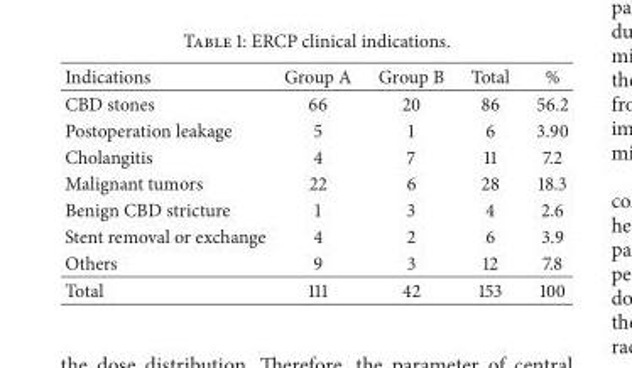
<table><thead><tr><td>Indications</td><td>Group A</td><td>Group B</td><td>Total</td><td>%</td></tr></thead><tbody><tr><td>CBD stones</td><td>66</td><td>20</td><td>86</td><td>56.2</td></tr><tr><td>Postoperation leakage</td><td>5</td><td>1</td><td>6</td><td>3.90</td></tr><tr><td>Cholangitis</td><td>4</td><td>7</td><td>11</td><td>7.2</td></tr><tr><td>Malignant tumors</td><td>22</td><td>6</td><td>28</td><td>18.3</td></tr><tr><td>Benign CBD stricture</td><td>1</td><td>3</td><td>4</td><td>2.6</td></tr><tr><td>Stent removal or exchange</td><td>4</td><td>2</td><td>6</td><td>3.9</td></tr><tr><td>Others</td><td>9</td><td>3</td><td>12</td><td>7.8</td></tr><tr><td>Total</td><td>111</td><td>42</td><td>153</td><td>100</td></tr></tbody></table>